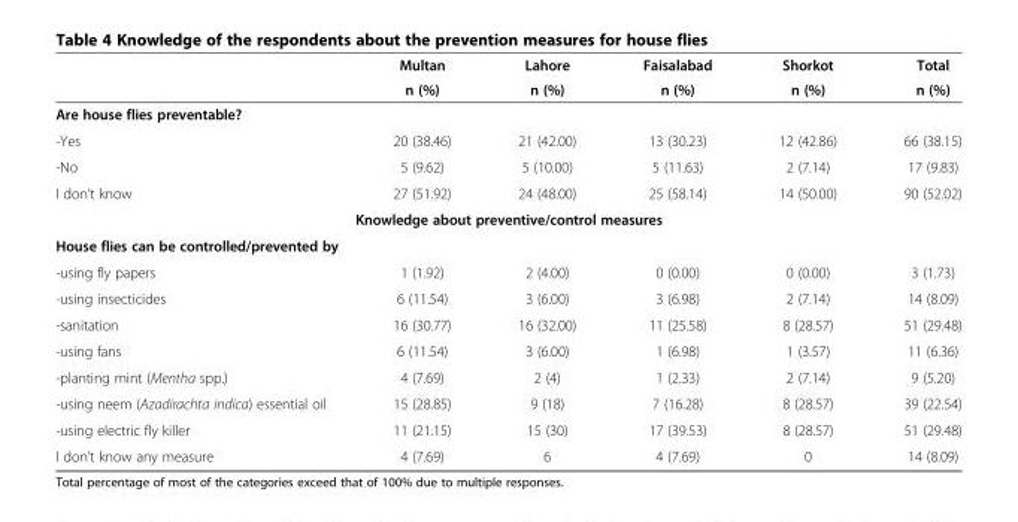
<table><thead><tr><td rowspan="2"></td><td rowspan="2">Multan n (%)</td><td rowspan="2">Lahore n (%)</td><td rowspan="2">Faisalabad n (%)</td><td rowspan="2">Shorkot n (%)</td><td rowspan="2">Total n (%)</td></tr><tr></tr></thead><tbody><tr><td colspan="6">Are house flies preventable?</td></tr><tr><td>-Yes</td><td>20 (38.46)</td><td>21 (42.00)</td><td>13 (30.23)</td><td>12 (42.86)</td><td>66 (38.15)</td></tr><tr><td>-No</td><td>5 (9.62)</td><td>5 (10.00)</td><td>5 (11.63)</td><td>2 (7.14)</td><td>17 (9.83)</td></tr><tr><td>I don’t know</td><td>27 (51.92)</td><td>24 (48.00)</td><td>25 (58.14)</td><td>14 (50.00)</td><td>90 (52.02)</td></tr><tr><td colspan="6">Knowledge about preventive/control measures</td></tr><tr><td colspan="6">House flies can be controlled/prevented by</td></tr><tr><td>-using fly papers</td><td>1 (1.92)</td><td>2 (4.00)</td><td>0 (0.00)</td><td>0 (0.00)</td><td>3 (1.73)</td></tr><tr><td>-using insecticides</td><td>6 (11.54)</td><td>3 (6.00)</td><td>3 (6.98)</td><td>2 (7.14)</td><td>14 (8.09)</td></tr><tr><td>-sanitation</td><td>16 (30.77)</td><td>16 (32.00)</td><td>11 (25.58)</td><td>8 (28.57)</td><td>51 (29.48)</td></tr><tr><td>-using fans</td><td>6 (11.54)</td><td>3 (6.00)</td><td>1 (6.98)</td><td>1 (3.57)</td><td>11 (6.36)</td></tr><tr><td>-planting mint (Mentha spp.)</td><td>4 (7.69)</td><td>2 (4)</td><td>1 (2.33)</td><td>2 (7.14)</td><td>9 (5.20)</td></tr><tr><td>-using neem (Azadirachta indica) essential oil</td><td>15 (28.85)</td><td>9 (18)</td><td>7 (16.28)</td><td>8 (28.57)</td><td>39 (22.54)</td></tr><tr><td>-using electric fly killer</td><td>11 (21.15)</td><td>15 (30)</td><td>17 (39.53)</td><td>8 (28.57)</td><td>51 (29.48)</td></tr><tr><td>I don’t know any measure</td><td>4 (7.69)</td><td>6</td><td>4 (7.69)</td><td>0</td><td>14 (8.09)</td></tr></tbody></table>